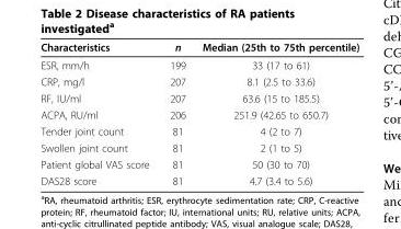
<table><thead><tr><td>Characteristics</td><td>n</td><td>Median (25th to 75th percentile)</td></tr></thead><tbody><tr><td>ESR, mm/h</td><td>199</td><td>33 (17 to 61)</td></tr><tr><td>CRP, mg/l</td><td>207</td><td>8.1 (2.5 to 33.6)</td></tr><tr><td>RF, IU/ml</td><td>207</td><td>63.6 (15 to 185.5)</td></tr><tr><td>ACPA, RU/ml</td><td>206</td><td>251.9 (42.65 to 650.7)</td></tr><tr><td>Tender joint count</td><td>81</td><td>4 (2 to 7)</td></tr><tr><td>Swollen joint count</td><td>81</td><td>2 (1 to 5)</td></tr><tr><td>Patient global VAS score</td><td>81</td><td>50 (30 to 70)</td></tr><tr><td>DAS28 score</td><td>81</td><td>4.7 (3.4 to 5.6)</td></tr></tbody></table>